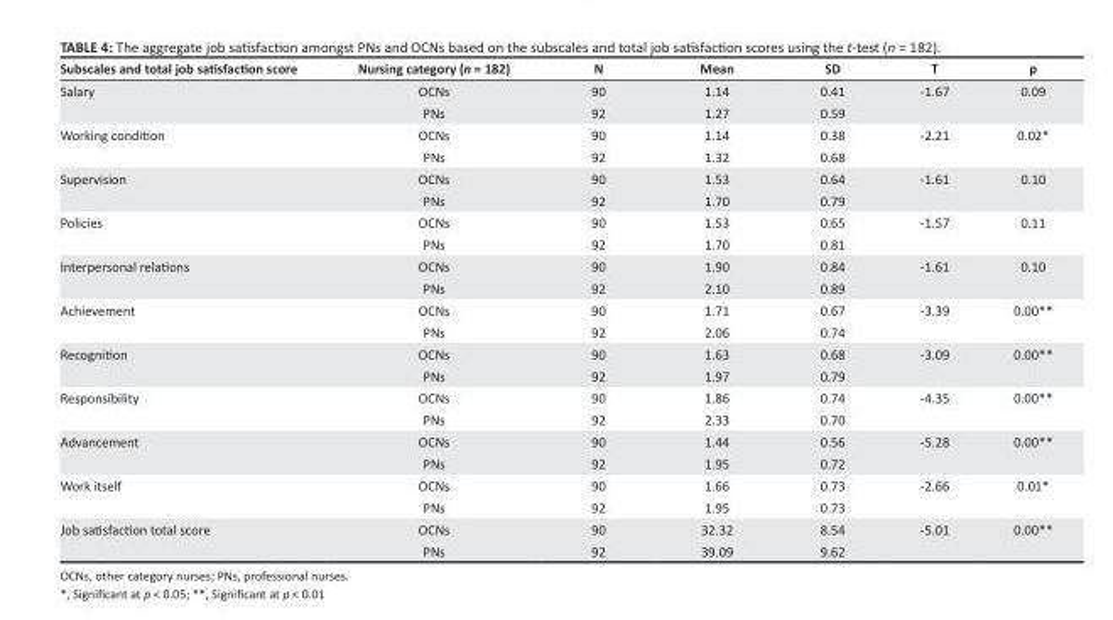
<table><thead><tr><td>Subscales and total job satisfaction score</td><td>Nursing category (n = 182)</td><td>N</td><td>Mean</td><td>SD</td><td>T</td><td>p</td></tr></thead><tbody><tr><td rowspan="2">Salary</td><td>OCNs</td><td>90</td><td>1.14</td><td>0.41</td><td>-1.67</td><td>0.09</td></tr><tr><td>PNs</td><td>92</td><td>1.27</td><td>0.59</td><td></td><td></td></tr><tr><td rowspan="2">Working condition</td><td>OCNs</td><td>90</td><td>1.14</td><td>0.38</td><td>-2.21</td><td>0.02*</td></tr><tr><td>PNs</td><td>92</td><td>1.32</td><td>0.68</td><td></td><td></td></tr><tr><td rowspan="2">Supervision</td><td>OCNs</td><td>90</td><td>1.53</td><td>0.64</td><td>-1.61</td><td>0.10</td></tr><tr><td>PNs</td><td>92</td><td>1.70</td><td>0.79</td><td></td><td></td></tr><tr><td rowspan="2">Policies</td><td>OCNs</td><td>90</td><td>1.53</td><td>0.65</td><td>-1.57</td><td>0.11</td></tr><tr><td>PNs</td><td>92</td><td>1.70</td><td>0.81</td><td></td><td></td></tr><tr><td rowspan="2">Interpersonal relations</td><td>OCNs</td><td>90</td><td>1.90</td><td>0.84</td><td>-1.61</td><td>0.10</td></tr><tr><td>PNs</td><td>92</td><td>2.10</td><td>0.89</td><td></td><td></td></tr><tr><td rowspan="2">Achievement</td><td>OCNs</td><td>90</td><td>1.71</td><td>0.67</td><td>-3.39</td><td>0.00**</td></tr><tr><td>PNs</td><td>92</td><td>2.06</td><td>0.74</td><td></td><td></td></tr><tr><td rowspan="2">Recognition</td><td>OCNs</td><td>90</td><td>1.63</td><td>0.68</td><td>-3.09</td><td>0.00**</td></tr><tr><td>PNs</td><td>92</td><td>1.97</td><td>0.79</td><td></td><td></td></tr><tr><td rowspan="2">Responsibility</td><td>OCNs</td><td>90</td><td>1.86</td><td>0.74</td><td>-4.35</td><td>0.00**</td></tr><tr><td>PNs</td><td>92</td><td>2.33</td><td>0.70</td><td></td><td></td></tr><tr><td rowspan="2">Advancement</td><td>OCNs</td><td>90</td><td>1.44</td><td>0.56</td><td>-5.28</td><td>0.00**</td></tr><tr><td>PNs</td><td>92</td><td>1.95</td><td>0.72</td><td></td><td></td></tr><tr><td rowspan="2">Work itself</td><td>OCNs</td><td>90</td><td>1.66</td><td>0.73</td><td>-2.66</td><td>0.01*</td></tr><tr><td>PNs</td><td>92</td><td>1.95</td><td>0.73</td><td></td><td></td></tr><tr><td rowspan="2">Job satisfaction total score</td><td>OCNs</td><td>90</td><td>32.32</td><td>8.54</td><td>-5.01</td><td>0.00**</td></tr><tr><td>PNs</td><td>92</td><td>39.09</td><td>9.62</td><td></td><td></td></tr></tbody></table>